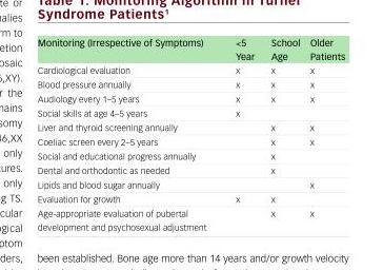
<table><thead><tr><td>Monitoring (Irrespective of Symptoms)</td><td>&lt;5 Year</td><td>School Age</td><td>Older Patients</td></tr></thead><tbody><tr><td>Cardiological evaluation</td><td>x</td><td>x</td><td>x</td></tr><tr><td>Blood pressure annually</td><td>x</td><td>x</td><td>x</td></tr><tr><td>Audiology every 1–5 years</td><td>x</td><td>x</td><td>x</td></tr><tr><td>Social skills at age 4–5 years</td><td>x</td><td></td><td></td></tr><tr><td>Liver and thyroid screening annually</td><td></td><td>x</td><td>x</td></tr><tr><td>Coeliac screen every 2–5 years</td><td></td><td>x</td><td>x</td></tr><tr><td>Social and educational progress annually</td><td></td><td>x</td><td></td></tr><tr><td>Dental and orthodontic as needed</td><td></td><td>x</td><td></td></tr><tr><td>Lipids and blood sugar annually</td><td></td><td></td><td>x</td></tr><tr><td>Evaluation for growth</td><td>x</td><td>x</td><td></td></tr><tr><td>Age-appropriate evaluation of pubertal development and psychosexual adjustment</td><td></td><td>x</td><td>x</td></tr></tbody></table>